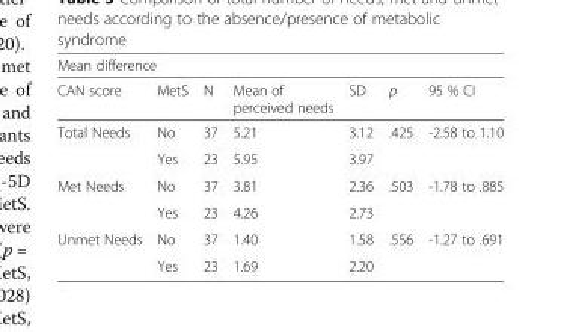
<table><thead><tr><td colspan="7">Mean difference</td></tr><tr><td>CAN score</td><td>MetS</td><td>N</td><td>Mean of perceived needs</td><td>SD</td><td>p</td><td>95 % CI</td></tr></thead><tbody><tr><td rowspan="2">Total Needs</td><td>No</td><td>37</td><td>5.21</td><td>3.12</td><td rowspan="2">.425</td><td rowspan="2">-2.58 to 1.10</td></tr><tr><td>Yes</td><td>23</td><td>5.95</td><td>3.97</td></tr><tr><td rowspan="2">Met Needs</td><td>No</td><td>37</td><td>3.81</td><td>2.36</td><td rowspan="2">.503</td><td rowspan="2">-1.78 to .885</td></tr><tr><td>Yes</td><td>23</td><td>4.26</td><td>2.73</td></tr><tr><td rowspan="2">Unmet Needs</td><td>No</td><td>37</td><td>1.40</td><td>1.58</td><td rowspan="2">.556</td><td rowspan="2">-1.27 to .691</td></tr><tr><td>Yes</td><td>23</td><td>1.69</td><td>2.20</td></tr></tbody></table>